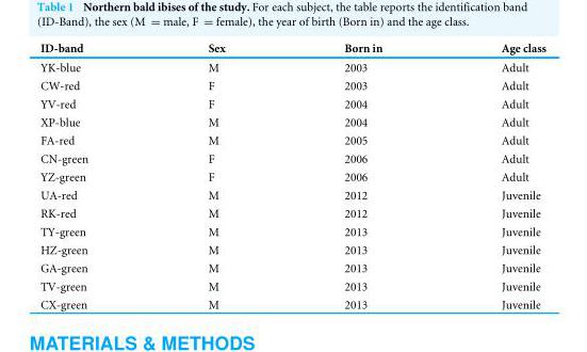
<table><thead><tr><td>ID-band</td><td>Sex</td><td>Born in</td><td>Age class</td></tr></thead><tbody><tr><td>YK-blue</td><td>M</td><td>2003</td><td>Adult</td></tr><tr><td>CW-red</td><td>F</td><td>2003</td><td>Adult</td></tr><tr><td>YV-red</td><td>F</td><td>2004</td><td>Adult</td></tr><tr><td>XP-blue</td><td>M</td><td>2004</td><td>Adult</td></tr><tr><td>FA-red</td><td>M</td><td>2005</td><td>Adult</td></tr><tr><td>CN-green</td><td>F</td><td>2006</td><td>Adult</td></tr><tr><td>YZ-green</td><td>F</td><td>2006</td><td>Adult</td></tr><tr><td>UA-red</td><td>M</td><td>2012</td><td>Juvenile</td></tr><tr><td>RK-red</td><td>M</td><td>2012</td><td>Juvenile</td></tr><tr><td>TY-green</td><td>M</td><td>2013</td><td>Juvenile</td></tr><tr><td>HZ-green</td><td>M</td><td>2013</td><td>Juvenile</td></tr><tr><td>GA-green</td><td>M</td><td>2013</td><td>Juvenile</td></tr><tr><td>TV-green</td><td>M</td><td>2013</td><td>Juvenile</td></tr><tr><td>CX-green</td><td>M</td><td>2013</td><td>Juvenile</td></tr></tbody></table>